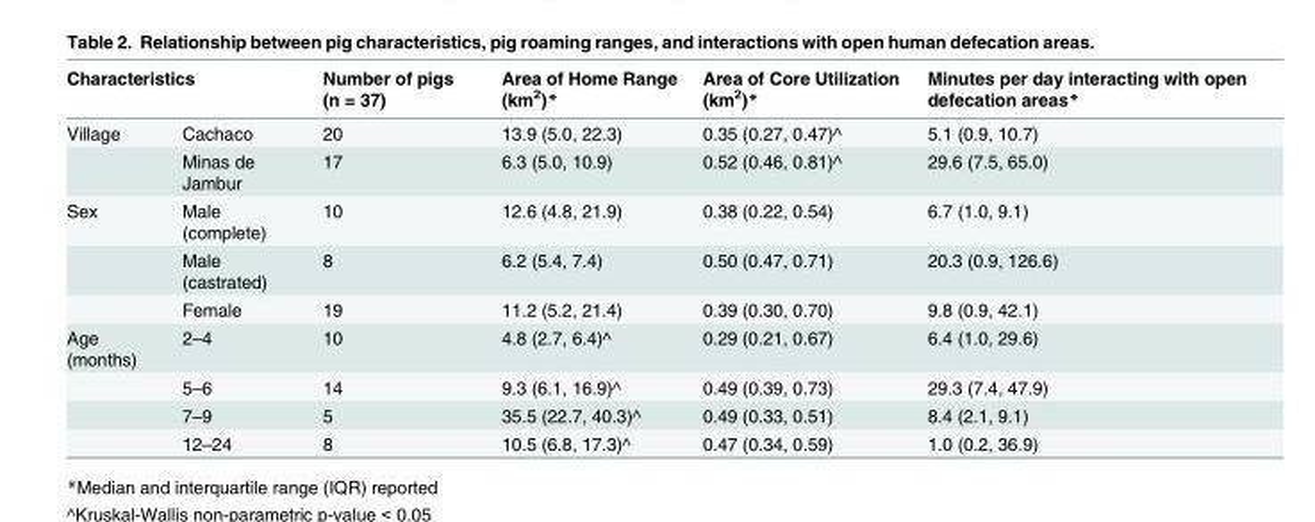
<table><thead><tr><td colspan="2">Characteristics</td><td rowspan="2">Number of pigs (n = 37) 20</td><td rowspan="2">Area of Home Range (km<sup>2</sup>)* 13.9 (5.0, 22.3)</td><td rowspan="2">Area of Core Utilization (km<sup>2</sup>)* 0.35 (0.27, 0.47)^</td><td rowspan="2">Minutes per day interacting with open defecation areas* 5.1 (0.9, 10.7)</td></tr><tr><td>Village</td><td>Cachaco</td></tr></thead><tbody><tr><td></td><td>Minas de Jambur</td><td>17</td><td>6.3 (5.0, 10.9)</td><td>0.52 (0.46, 0.81)^</td><td>29.6 (7.5, 65.0)</td></tr><tr><td rowspan="3">Sex</td><td>Male (complete)</td><td>10</td><td>12.6 (4.8, 21.9)</td><td>0.38 (0.22, 0.54)</td><td>6.7 (1.0, 9.1)</td></tr><tr><td>Male (castrated)</td><td>8</td><td>6.2 (5.4, 7.4)</td><td>0.50 (0.47, 0.71)</td><td>20.3 (0.9, 126.6)</td></tr><tr><td>Female</td><td>19</td><td>11.2 (5.2, 21.4)</td><td>0.39 (0.30, 0.70)</td><td>9.8 (0.9, 42.1)</td></tr><tr><td rowspan="4">Age (months)</td><td>2–4</td><td>10</td><td>4.8 (2.7, 6.4)^</td><td>0.29 (0.21, 0.67)</td><td>6.4 (1.0, 29.6)</td></tr><tr><td>5–6</td><td>14</td><td>9.3 (6.1, 16.9)^</td><td>0.49 (0.39, 0.73)</td><td>29.3 (7.4, 47.9)</td></tr><tr><td>7–9</td><td>5</td><td>35.5 (22.7, 40.3)^</td><td>0.49 (0.33, 0.51)</td><td>8.4 (2.1, 9.1)</td></tr><tr><td>12–24</td><td>8</td><td>10.5 (6.8, 17.3)^</td><td>0.47 (0.34, 0.59)</td><td>1.0 (0.2, 36.9)</td></tr></tbody></table>